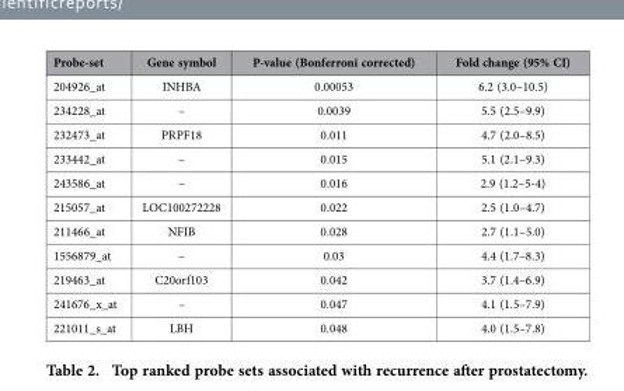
<table><thead><tr><td>Probe-set</td><td>Gene symbol</td><td>P-value (Bonferroni corrected)</td><td>Fold change (95% CI)</td></tr></thead><tbody><tr><td>204926_at</td><td>INHBA</td><td>0.00053</td><td>6.2 (3.0–10.5)</td></tr><tr><td>234228_at</td><td>–</td><td>0.0039</td><td>5.5 (2.5–9.9)</td></tr><tr><td>232473_at</td><td>PRPF18</td><td>0.011</td><td>4.7 (2.0–8.5)</td></tr><tr><td>233442_at</td><td>–</td><td>0.015</td><td>5.1 (2.1–9.3)</td></tr><tr><td>243586_at</td><td>–</td><td>0.016</td><td>2.9 (1.2–5-4)</td></tr><tr><td>215057_at</td><td>LOC100272228</td><td>0.022</td><td>2.5 (1.0–4.7)</td></tr><tr><td>211466_at</td><td>NFIB</td><td>0.028</td><td>2.7 (1.1–5.0)</td></tr><tr><td>1556879_at</td><td>–</td><td>0.03</td><td>4.4 (1.7–8.3)</td></tr><tr><td>219463_at</td><td>C20orf103</td><td>0.042</td><td>3.7 (1.4–6.9)</td></tr><tr><td>241676_x_at</td><td>–</td><td>0.047</td><td>4.1 (1.5–7.9)</td></tr><tr><td>221011_s_at</td><td>LBH</td><td>0.048</td><td>4.0 (1.5–7.8)</td></tr></tbody></table>